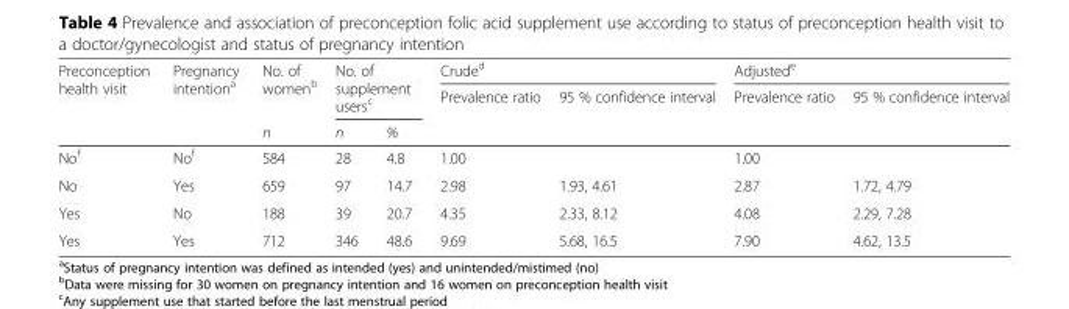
<table><thead><tr><td rowspan="3">Preconception health visit</td><td rowspan="3">Pregnancy intention<sup>a</sup></td><td rowspan="3">No. of women<sup>b</sup> n</td><td rowspan="2" colspan="2">No. of supplement users<sup>c</sup></td><td colspan="2">Crude<sup>d</sup></td><td colspan="2">Adjusted<sup>e</sup></td></tr><tr><td rowspan="2">Prevalence ratio</td><td rowspan="2">95 % confidence interval</td><td rowspan="2">Prevalence ratio</td><td rowspan="2">95 % confidence interval</td></tr><tr><td>n</td><td>%</td></tr></thead><tbody><tr><td>No<sup>f</sup></td><td>No<sup>f</sup></td><td>584</td><td>28</td><td>4.8</td><td>1.00</td><td></td><td>1.00</td><td></td></tr><tr><td>No</td><td>Yes</td><td>659</td><td>97</td><td>14.7</td><td>2.98</td><td>1.93, 4.61</td><td>2.87</td><td>1.72, 4.79</td></tr><tr><td>Yes</td><td>No</td><td>188</td><td>39</td><td>20.7</td><td>4.35</td><td>2.33, 8.12</td><td>4.08</td><td>2.29, 7.28</td></tr><tr><td>Yes</td><td>Yes</td><td>712</td><td>346</td><td>48.6</td><td>9.69</td><td>5.68, 16.5</td><td>7.90</td><td>4.62, 13.5</td></tr></tbody></table>